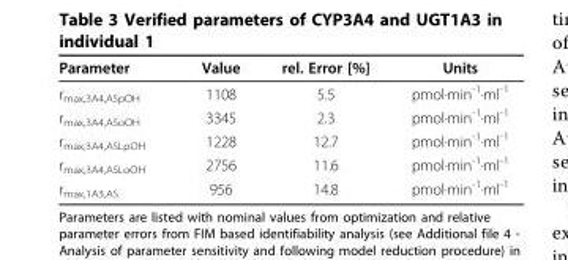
<table><thead><tr><td>Parameter</td><td>Value</td><td>rel. Error [%]</td><td>Units</td></tr></thead><tbody><tr><td>r<sub>max,3A4,ASpOH</sub></td><td>1108</td><td>5.5</td><td>pmol·min<sup>-1</sup>·ml<sup>-1</sup></td></tr><tr><td>r<sub>max,3A4,ASoOH</sub></td><td>3345</td><td>2.3</td><td>pmol·min<sup>-1</sup>·ml<sup>-1</sup></td></tr><tr><td>r<sub>max,3A4,ASLpOH</sub></td><td>1228</td><td>12.7</td><td>pmol·min<sup>-1</sup>·ml<sup>-1</sup></td></tr><tr><td>r<sub>max,3A4,ASLoOH</sub></td><td>2756</td><td>11.6</td><td>pmol·min<sup>-1</sup>·ml<sup>-1</sup></td></tr><tr><td>r<sub>max,1A3,AS</sub></td><td>956</td><td>14.8</td><td>pmol·min<sup>-1</sup>·ml<sup>-1</sup></td></tr></tbody></table>